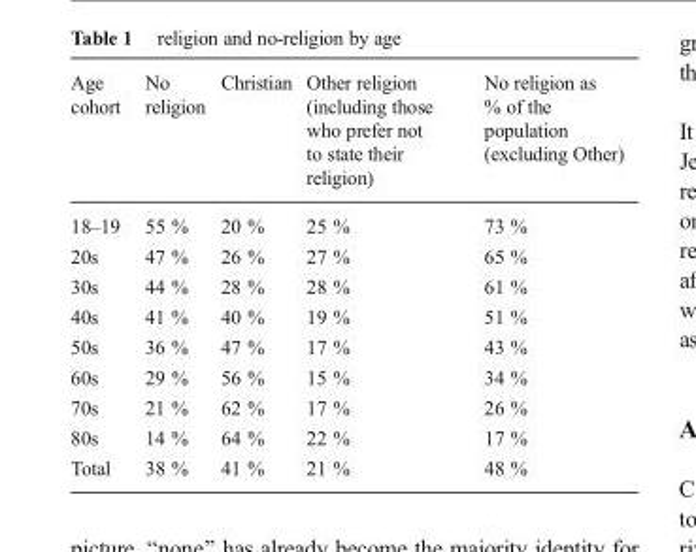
<table><thead><tr><td>Age cohort</td><td>No religion</td><td>Christian</td><td>Other religion (including those who prefer not to state their religion)</td><td>No religion as % of the population (excluding Other)</td></tr></thead><tbody><tr><td>18–19</td><td>55 %</td><td>20 %</td><td>25 %</td><td>73 %</td></tr><tr><td>20s</td><td>47 %</td><td>26 %</td><td>27 %</td><td>65 %</td></tr><tr><td>30s</td><td>44 %</td><td>28 %</td><td>28 %</td><td>61 %</td></tr><tr><td>40s</td><td>41 %</td><td>40 %</td><td>19 %</td><td>51 %</td></tr><tr><td>50s</td><td>36 %</td><td>47 %</td><td>17 %</td><td>43 %</td></tr><tr><td>60s</td><td>29 %</td><td>56 %</td><td>15 %</td><td>34 %</td></tr><tr><td>70s</td><td>21 %</td><td>62 %</td><td>17 %</td><td>26 %</td></tr><tr><td>80s</td><td>14 %</td><td>64 %</td><td>22 %</td><td>17 %</td></tr><tr><td>Total</td><td>38 %</td><td>41 %</td><td>21 %</td><td>48 %</td></tr></tbody></table>